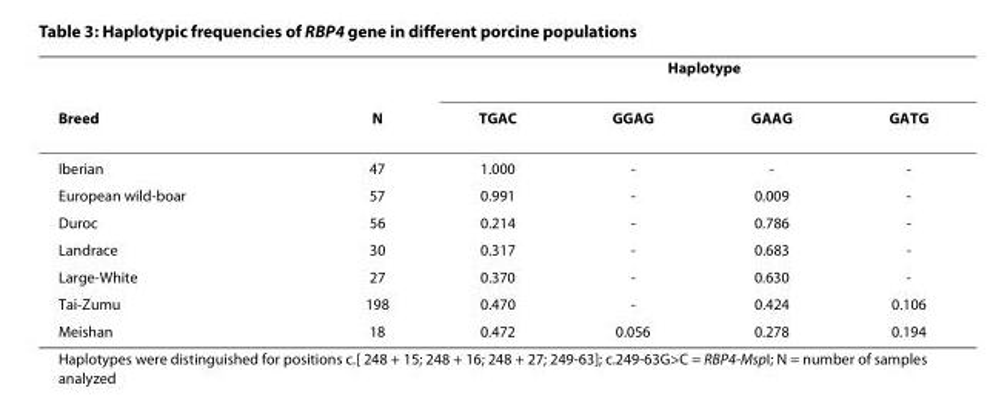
<table><thead><tr><td rowspan="2">Breed</td><td rowspan="2">N</td><td colspan="4">Haplotype</td></tr><tr><td>TGAC</td><td>GGAG</td><td>GAAG</td><td>GATG</td></tr></thead><tbody><tr><td>Iberian</td><td>47</td><td>1.000</td><td>-</td><td>-</td><td>-</td></tr><tr><td>European wild-boar</td><td>57</td><td>0.991</td><td>-</td><td>0.009</td><td>-</td></tr><tr><td>Duroc</td><td>56</td><td>0.214</td><td>-</td><td>0.786</td><td>-</td></tr><tr><td>Landrace</td><td>30</td><td>0.317</td><td>-</td><td>0.683</td><td>-</td></tr><tr><td>Large-White</td><td>27</td><td>0.370</td><td>-</td><td>0.630</td><td>-</td></tr><tr><td>Tai-Zumu</td><td>198</td><td>0.470</td><td>-</td><td>0.424</td><td>0.106</td></tr><tr><td>Meishan</td><td>18</td><td>0.472</td><td>0.056</td><td>0.278</td><td>0.194</td></tr></tbody></table>